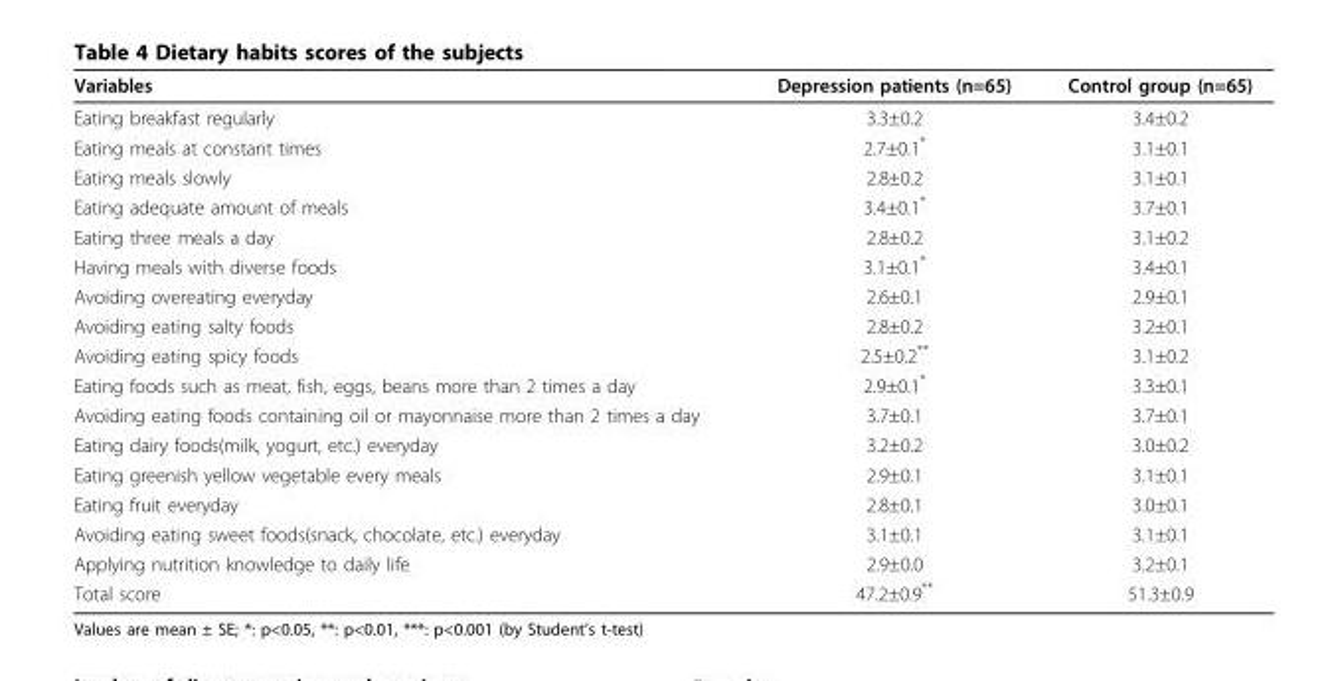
<table><thead><tr><td>Variables</td><td>Depression patients (n=65)</td><td>Control group (n=65)</td></tr></thead><tbody><tr><td>Eating breakfast regularly</td><td>3.3±0.2</td><td>3.4±0.2</td></tr><tr><td>Eating meals at constant times</td><td>2.7±0.1*</td><td>3.1±0.1</td></tr><tr><td>Eating meals slowly</td><td>2.8±0.2</td><td>3.1±0.1</td></tr><tr><td>Eating adequate amount of meals</td><td>3.4±0.1*</td><td>3.7±0.1</td></tr><tr><td>Eating three meals a day</td><td>2.8±0.2</td><td>3.1±0.2</td></tr><tr><td>Having meals with diverse foods</td><td>3.1±0.1*</td><td>3.4±0.1</td></tr><tr><td>Avoiding overeating everyday</td><td>2.6±0.1</td><td>2.9±0.1</td></tr><tr><td>Avoiding eating salty foods</td><td>2.8±0.2</td><td>3.2±0.1</td></tr><tr><td>Avoiding eating spicy foods</td><td>2.5±0.2**</td><td>3.1±0.2</td></tr><tr><td>Eating foods such as meat, fish, eggs, beans more than 2 times a day</td><td>2.9±0.1*</td><td>3.3±0.1</td></tr><tr><td>Avoiding eating foods containing oil or mayonnaise more than 2 times a day</td><td>3.7±0.1</td><td>3.7±0.1</td></tr><tr><td>Eating dairy foods(milk, yogurt, etc.) everyday</td><td>3.2±0.2</td><td>3.0±0.2</td></tr><tr><td>Eating greenish yellow vegetable every meals</td><td>2.9±0.1</td><td>3.1±0.1</td></tr><tr><td>Eating fruit everyday</td><td>2.8±0.1</td><td>3.0±0.1</td></tr><tr><td>Avoiding eating sweet foods(snack, chocolate, etc.) everyday</td><td>3.1±0.1</td><td>3.1±0.1</td></tr><tr><td>Applying nutrition knowledge to daily life</td><td>2.9±0.0</td><td>3.2±0.1</td></tr><tr><td>Total score</td><td>47.2±0.9**</td><td>51.3±0.9</td></tr></tbody></table>